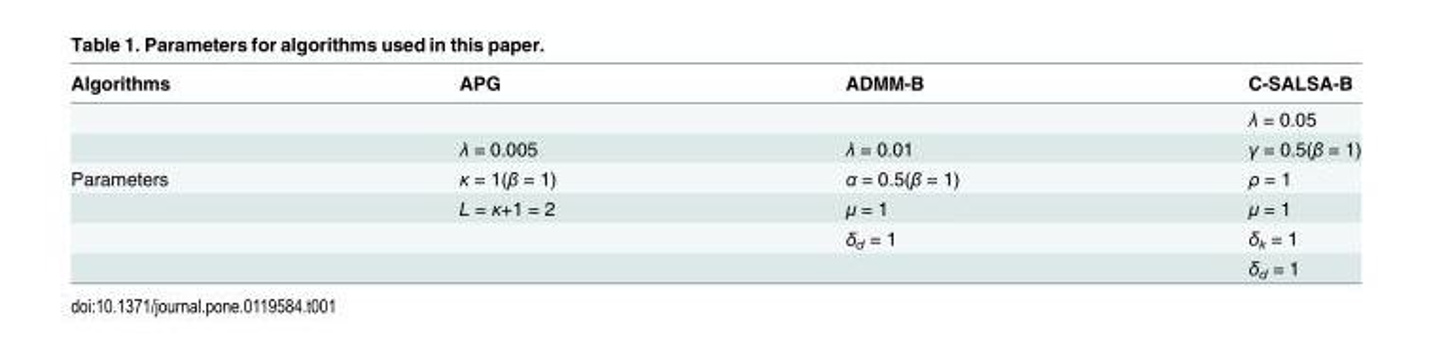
<table><thead><tr><td>Algorithms</td><td>APG</td><td>ADMM-B</td><td>C-SALSA-B</td></tr></thead><tbody><tr><td></td><td></td><td></td><td>λ = 0.05</td></tr><tr><td></td><td>λ = 0.005</td><td>λ = 0.01</td><td>γ = 0.5(β = 1)</td></tr><tr><td rowspan="4">Parameters</td><td>κ = 1(β = 1)</td><td>α = 0.5(β = 1)</td><td>ρ = 1</td></tr><tr><td>L = κ+1 = 2</td><td>μ = 1</td><td>μ = 1</td></tr><tr><td></td><td>δ<sub>d</sub> = 1</td><td>δ<sub>k</sub> = 1</td></tr><tr><td></td><td></td><td>δ<sub>d</sub> = 1</td></tr></tbody></table>